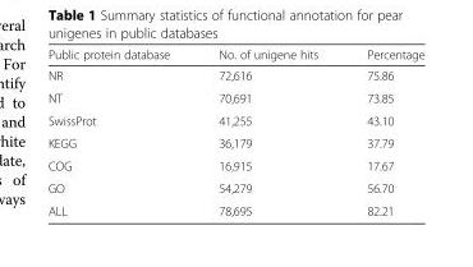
<table><thead><tr><td>Public protein database</td><td>No. of unigene hits</td><td>Percentage</td></tr></thead><tbody><tr><td>NR</td><td>72,616</td><td>75.86</td></tr><tr><td>NT</td><td>70,691</td><td>73.85</td></tr><tr><td>SwissProt</td><td>41,255</td><td>43.10</td></tr><tr><td>KEGG</td><td>36,179</td><td>37.79</td></tr><tr><td>COG</td><td>16,915</td><td>17.67</td></tr><tr><td>GO</td><td>54,279</td><td>56.70</td></tr><tr><td>ALL</td><td>78,695</td><td>82.21</td></tr></tbody></table>